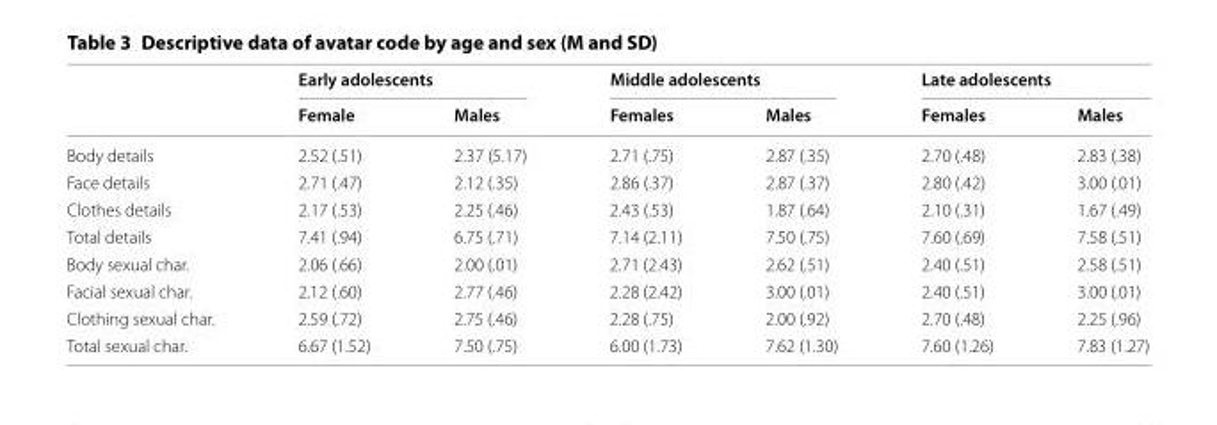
<table><thead><tr><td rowspan="2"></td><td colspan="2">Early adolescents</td><td colspan="2">Middle adolescents</td><td colspan="2">Late adolescents</td></tr><tr><td>Female</td><td>Males</td><td>Females</td><td>Males</td><td>Females</td><td>Males</td></tr></thead><tbody><tr><td>Body details</td><td>2.52 (.51)</td><td>2.37 (5.17)</td><td>2.71 (.75)</td><td>2.87 (.35)</td><td>2.70 (.48)</td><td>2.83 (.38)</td></tr><tr><td>Face details</td><td>2.71 (.47)</td><td>2.12 (.35)</td><td>2.86 (.37)</td><td>2.87 (.37)</td><td>2.80 (.42)</td><td>3.00 (.01)</td></tr><tr><td>Clothes details</td><td>2.17 (.53)</td><td>2.25 (.46)</td><td>2.43 (.53)</td><td>1.87 (.64)</td><td>2.10 (.31)</td><td>1.67 (.49)</td></tr><tr><td>Total details</td><td>7.41 (.94)</td><td>6.75 (.71)</td><td>7.14 (2.11)</td><td>7.50 (.75)</td><td>7.60 (.69)</td><td>7.58 (.51)</td></tr><tr><td>Body sexual char.</td><td>2.06 (.66)</td><td>2.00 (.01)</td><td>2.71 (2.43)</td><td>2.62 (.51)</td><td>2.40 (.51)</td><td>2.58 (.51)</td></tr><tr><td>Facial sexual char.</td><td>2.12 (.60)</td><td>2.77 (.46)</td><td>2.28 (2.42)</td><td>3.00 (.01)</td><td>2.40 (.51)</td><td>3.00 (.01)</td></tr><tr><td>Clothing sexual char.</td><td>2.59 (.72)</td><td>2.75 (.46)</td><td>2.28 (.75)</td><td>2.00 (.92)</td><td>2.70 (.48)</td><td>2.25 (.96)</td></tr><tr><td>Total sexual char.</td><td>6.67 (1.52)</td><td>7.50 (.75)</td><td>6.00 (1.73)</td><td>7.62 (1.30)</td><td>7.60 (1.26)</td><td>7.83 (1.27)</td></tr></tbody></table>